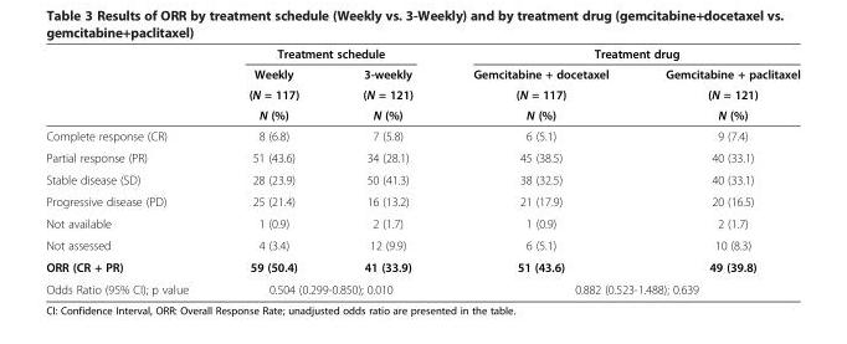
<table><thead><tr><td rowspan="4"></td><td colspan="2">Treatment schedule</td><td colspan="2">Treatment drug</td></tr><tr><td rowspan="3">Weekly (N = 117) N (%)</td><td rowspan="3">3-weekly (N = 121) N (%)</td><td rowspan="3">Gemcitabine + docetaxel (N = 117) N (%)</td><td rowspan="3">Gemcitabine + paclitaxel (N = 121) N (%)</td></tr><tr></tr><tr></tr></thead><tbody><tr><td>Complete response (CR)</td><td>8 (6.8)</td><td>7 (5.8)</td><td>6 (5.1)</td><td>9 (7.4)</td></tr><tr><td>Partial response (PR)</td><td>51 (43.6)</td><td>34 (28.1)</td><td>45 (38.5)</td><td>40 (33.1)</td></tr><tr><td>Stable disease (SD)</td><td>28 (23.9)</td><td>50 (41.3)</td><td>38 (32.5)</td><td>40 (33.1)</td></tr><tr><td>Progressive disease (PD)</td><td>25 (21.4)</td><td>16 (13.2)</td><td>21 (17.9)</td><td>20 (16.5)</td></tr><tr><td>Not available</td><td>1 (0.9)</td><td>2 (1.7)</td><td>1 (0.9)</td><td>2 (1.7)</td></tr><tr><td>Not assessed</td><td>4 (3.4)</td><td>12 (9.9)</td><td>6 (5.1)</td><td>10 (8.3)</td></tr><tr><td>ORR (CR + PR)</td><td>59 (50.4)</td><td>41 (33.9)</td><td>51 (43.6)</td><td>49 (39.8)</td></tr><tr><td>Odds Ratio (95% CI); p value</td><td colspan="2">0.504 (0.299-0.850); 0.010</td><td colspan="2">0.882 (0.523-1.488); 0.639</td></tr></tbody></table>